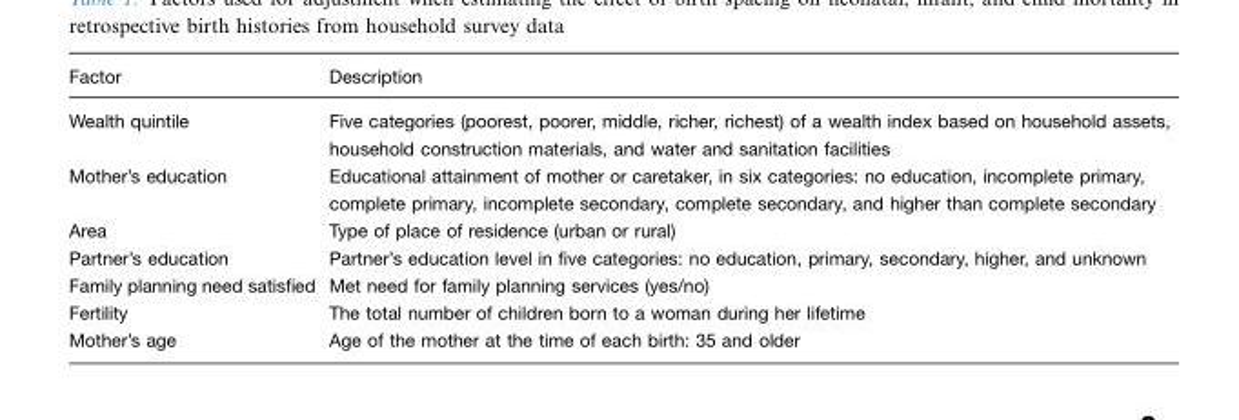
<table><thead><tr><td>Factor</td><td>Description</td></tr></thead><tbody><tr><td>Wealth quintile</td><td>Five categories (poorest, poorer, middle, richer, richest) of a wealth index based on household assets, household construction materials, and water and sanitation facilities</td></tr><tr><td>Mother’s education</td><td>Educational attainment of mother or caretaker, in six categories: no education, incomplete primary, complete primary, incomplete secondary, complete secondary, and higher than complete secondary</td></tr><tr><td>Area</td><td>Type of place of residence (urban or rural)</td></tr><tr><td>Partner’s education</td><td>Partner’s education level in five categories: no education, primary, secondary, higher, and unknown</td></tr><tr><td>Family planning need satisfied</td><td>Met need for family planning services (yes/no)</td></tr><tr><td>Fertility</td><td>The total number of children born to a woman during her lifetime</td></tr><tr><td>Mother’s age</td><td>Age of the mother at the time of each birth: 35 and older</td></tr></tbody></table>